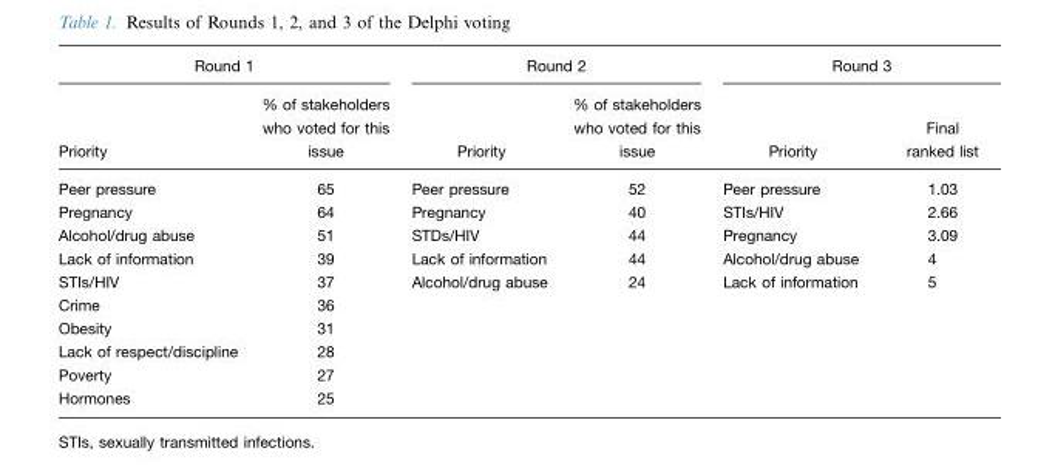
<table><thead><tr><td colspan="2">Round 1</td><td colspan="2">Round 2</td><td colspan="2">Round 3</td></tr><tr><td>Priority</td><td>% of stakeholders who voted for this issue</td><td>Priority</td><td>% of stakeholders who voted for this issue</td><td>Priority</td><td>Final ranked list</td></tr></thead><tbody><tr><td>Peer pressure</td><td>65</td><td>Peer pressure</td><td>52</td><td>Peer pressure</td><td>1.03</td></tr><tr><td>Pregnancy</td><td>64</td><td>Pregnancy</td><td>40</td><td>STIs/HIV</td><td>2.66</td></tr><tr><td>Alcohol/drug abuse</td><td>51</td><td>STDs/HIV</td><td>44</td><td>Pregnancy</td><td>3.09</td></tr><tr><td>Lack of information</td><td>39</td><td>Lack of information</td><td>44</td><td>Alcohol/drug abuse</td><td>4</td></tr><tr><td>STIs/HIV</td><td>37</td><td>Alcohol/drug abuse</td><td>24</td><td>Lack of information</td><td>5</td></tr><tr><td>Crime</td><td>36</td><td></td><td></td><td></td><td></td></tr><tr><td>Obesity</td><td>31</td><td></td><td></td><td></td><td></td></tr><tr><td>Lack of respect/discipline</td><td>28</td><td></td><td></td><td></td><td></td></tr><tr><td>Poverty</td><td>27</td><td></td><td></td><td></td><td></td></tr><tr><td>Hormones</td><td>25</td><td></td><td></td><td></td><td></td></tr></tbody></table>